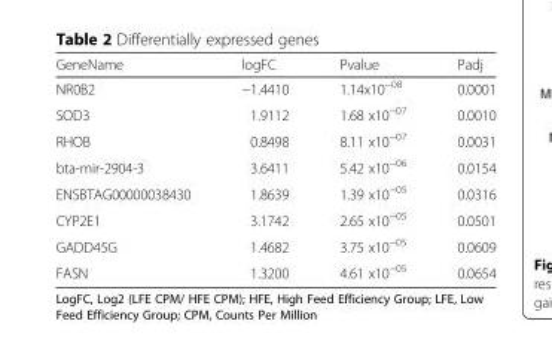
<table><thead><tr><td>GeneName</td><td>logFC</td><td>Pvalue</td><td>Padj</td></tr></thead><tbody><tr><td>NR0B2</td><td>−1.4410</td><td>1.14x10<sup>−08</sup></td><td>0.0001</td></tr><tr><td>SOD3</td><td>1.9112</td><td>1.68 x10<sup>−07</sup></td><td>0.0010</td></tr><tr><td>RHOB</td><td>0.8498</td><td>8.11 x10<sup>−07</sup></td><td>0.0031</td></tr><tr><td>bta-mir-2904-3</td><td>3.6411</td><td>5.42 x10<sup>−06</sup></td><td>0.0154</td></tr><tr><td>ENSBTAG00000038430</td><td>1.8639</td><td>1.39 x10<sup>−05</sup></td><td>0.0316</td></tr><tr><td>CYP2E1</td><td>3.1742</td><td>2.65 x10<sup>−05</sup></td><td>0.0501</td></tr><tr><td>GADD45G</td><td>1.4682</td><td>3.75 x10<sup>−05</sup></td><td>0.0609</td></tr><tr><td>FASN</td><td>1.3200</td><td>4.61 x10<sup>−05</sup></td><td>0.0654</td></tr></tbody></table>